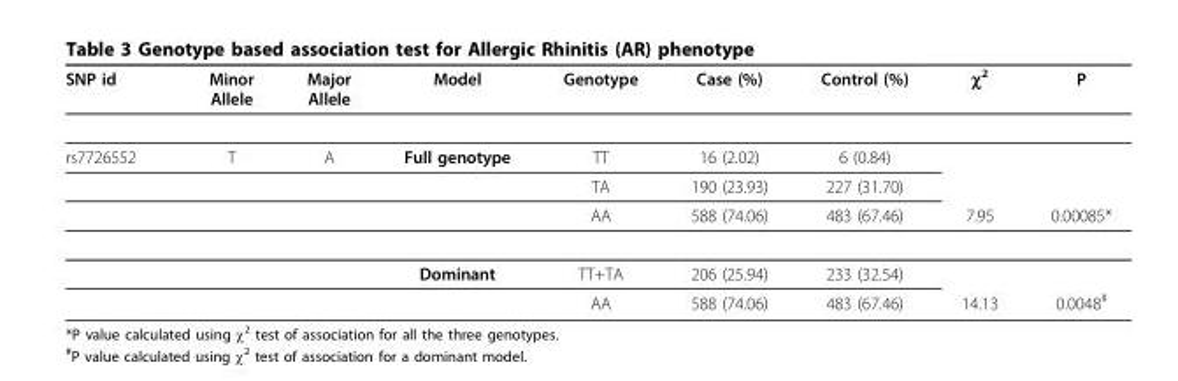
<table><thead><tr><td>SNP id</td><td>Minor Allele</td><td>Major Allele</td><td>Model</td><td>Genotype</td><td>Case (%)</td><td>Control (%)</td><td>χ<sup>2</sup></td><td>P</td></tr></thead><tbody><tr><td rowspan="5">rs7726552</td><td>T</td><td>A</td><td>Full genotype</td><td>TT</td><td>16 (2.02)</td><td>6 (0.84)</td><td></td><td></td></tr><tr><td></td><td></td><td></td><td>TA</td><td>190 (23.93)</td><td>227 (31.70)</td><td></td><td></td></tr><tr><td></td><td></td><td></td><td>AA</td><td>588 (74.06)</td><td>483 (67.46)</td><td>7.95</td><td>0.00085*</td></tr><tr><td></td><td></td><td>Dominant</td><td>TT+TA</td><td>206 (25.94)</td><td>233 (32.54)</td><td></td><td></td></tr><tr><td></td><td></td><td></td><td>AA</td><td>588 (74.06)</td><td>483 (67.46)</td><td>14.13</td><td>0.0048#</td></tr></tbody></table>